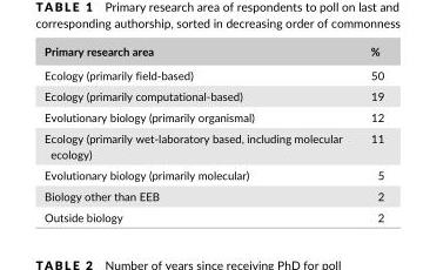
<table><thead><tr><td>Primary research area</td><td>%</td></tr></thead><tbody><tr><td>Ecology (primarily field- based)</td><td>50</td></tr><tr><td>Ecology (primarily computational- based)</td><td>19</td></tr><tr><td>Evolutionary biology (primarily organismal)</td><td>12</td></tr><tr><td>Ecology (primarily wet- laboratory based, including molecular ecology)</td><td>11</td></tr><tr><td>Evolutionary biology (primarily molecular)</td><td>5</td></tr><tr><td>Biology other than EEB</td><td>2</td></tr><tr><td>Outside biology</td><td>2</td></tr></tbody></table>